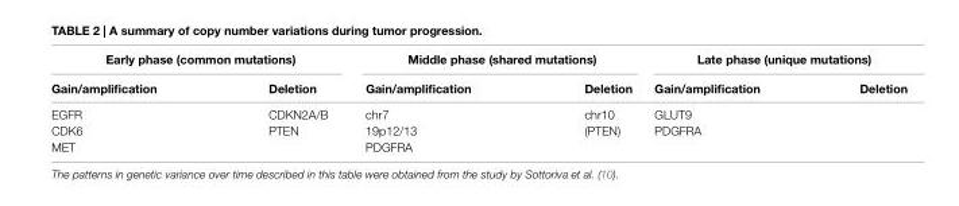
<table><thead><tr><td colspan="2">early phase (common mutations)</td><td colspan="2">Middle phase (shared mutations)</td><td colspan="2">Late phase (unique mutations)</td></tr><tr><td>Gain/amplification</td><td>Deletion</td><td>Gain/amplification</td><td>Deletion</td><td>Gain/amplification</td><td>Deletion</td></tr></thead><tbody><tr><td>EGFR</td><td>CDKN2A/B</td><td>chr7</td><td>chr10</td><td>GLUT9</td><td></td></tr><tr><td>CDK6</td><td>PTEN</td><td>19p12/13</td><td>(PTEN)</td><td>PDGFRA</td><td></td></tr><tr><td>MET</td><td></td><td>PDGFRA</td><td></td><td></td><td></td></tr></tbody></table>